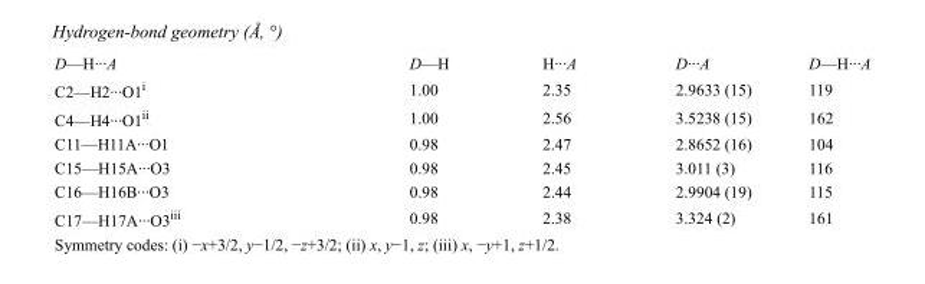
<table><tbody><tr><td>D—H···A</td><td>D—H</td><td>H···A</td><td>D···A</td><td>D—H···A</td></tr><tr><td>C2—H2···O1<sup>i</sup></td><td>1.00</td><td>2.35</td><td>2.9633 (15)</td><td>119</td></tr><tr><td>C4—H4···O1<sup>ii</sup></td><td>1.00</td><td>2.56</td><td>3.5238 (15)</td><td>162</td></tr><tr><td>C11—H11A···O1</td><td>0.98</td><td>2.47</td><td>2.8652 (16)</td><td>104</td></tr><tr><td>C15—H15A···O3</td><td>0.98</td><td>2.45</td><td>3.011 (3)</td><td>116</td></tr><tr><td>C16—H16B···O3</td><td>0.98</td><td>2.44</td><td>2.9904 (19)</td><td>115</td></tr><tr><td>C17—H17A···O3<sup>iii</sup></td><td>0.98</td><td>2.38</td><td>3.324 (2)</td><td>161</td></tr></tbody></table>